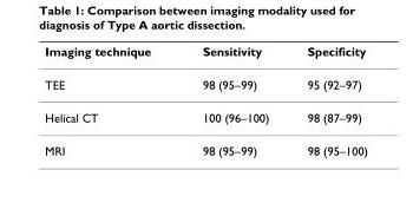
<table><thead><tr><td>Imaging technique</td><td>Sensitivity</td><td>Specificity</td></tr></thead><tbody><tr><td>TEE</td><td>98 (95–99)</td><td>95 (92–97)</td></tr><tr><td>Helical CT</td><td>100 (96–100)</td><td>98 (87–99)</td></tr><tr><td>MRI</td><td>98 (95–99)</td><td>98 (95–100)</td></tr></tbody></table>